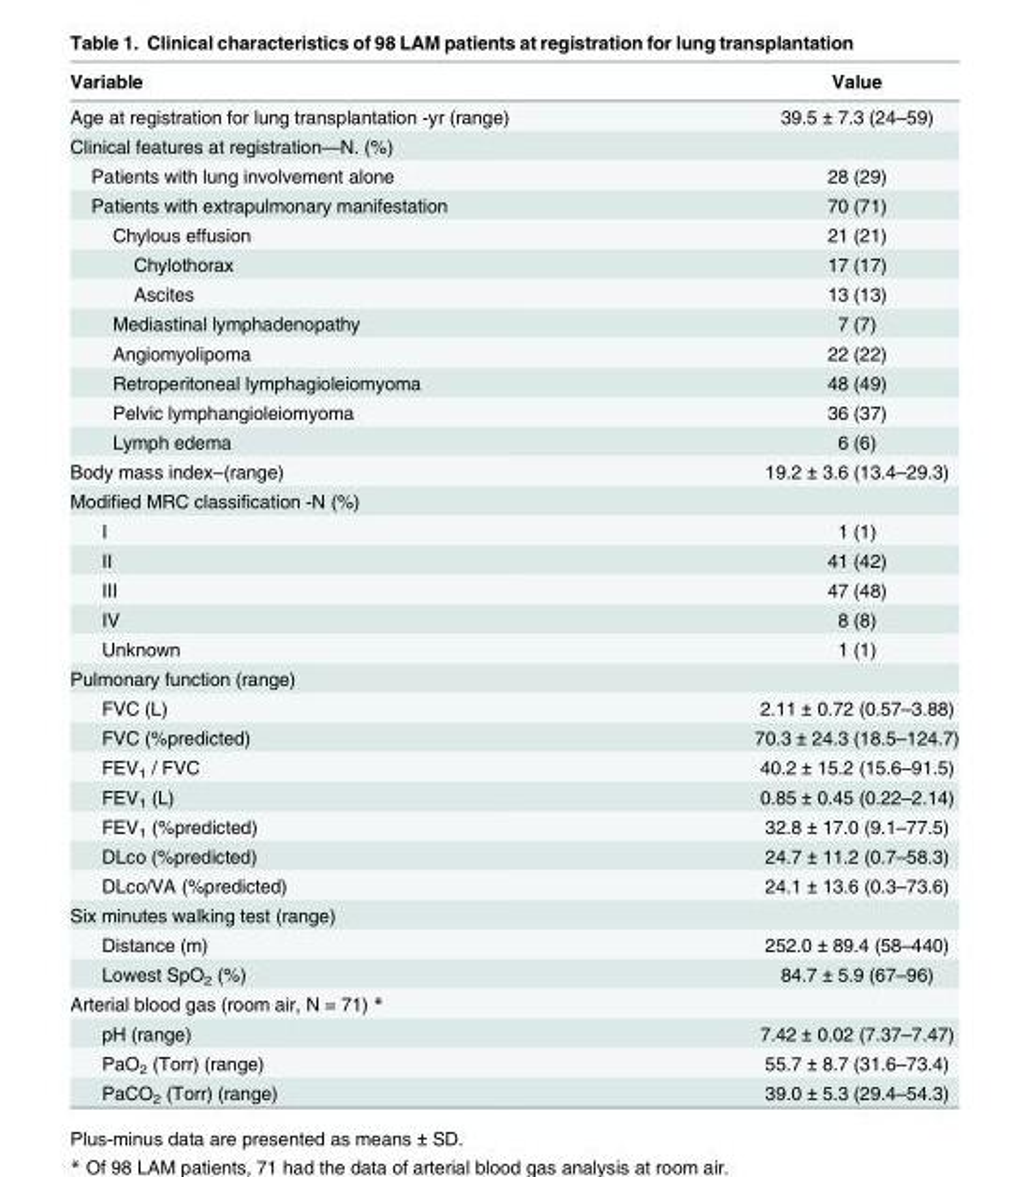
<table><thead><tr><td>Variable</td><td>Value</td></tr></thead><tbody><tr><td>Age at registration for lung transplantation -yr (range)</td><td>39.5 ± 7.3 (24–59)</td></tr><tr><td colspan="2">Clinical features at registration—N. (%)</td></tr><tr><td>Patients with lung involvement alone</td><td>28 (29)</td></tr><tr><td>Patients with extrapulmonary manifestation</td><td>70 (71)</td></tr><tr><td>Chylous effusion</td><td>21 (21)</td></tr><tr><td>Chylothorax</td><td>17 (17)</td></tr><tr><td>Ascites</td><td>13 (13)</td></tr><tr><td>Mediastinal lymphadenopathy</td><td>7 (7)</td></tr><tr><td>Angiomyolipoma</td><td>22 (22)</td></tr><tr><td>Retroperitoneal lymphagioleiomyoma</td><td>48 (49)</td></tr><tr><td>Pelvic lymphangioleiomyoma</td><td>36 (37)</td></tr><tr><td>Lymph edema</td><td>6 (6)</td></tr><tr><td>Body mass index–(range)</td><td>19.2 ± 3.6 (13.4–29.3)</td></tr><tr><td colspan="2">Modified MRC classification -N (%)</td></tr><tr><td>I</td><td>1 (1)</td></tr><tr><td>II</td><td>41 (42)</td></tr><tr><td>III</td><td>47 (48)</td></tr><tr><td>IV</td><td>8 (8)</td></tr><tr><td>Unknown</td><td>1 (1)</td></tr><tr><td colspan="2">Pulmonary function (range)</td></tr><tr><td>FVC (L)</td><td>2.11 ± 0.72 (0.57–3.88)</td></tr><tr><td>FVC (%predicted)</td><td>70.3 ± 24.3 (18.5–124.7)</td></tr><tr><td>FEV<sub>1</sub> / FVC</td><td>40.2 ± 15.2 (15.6–91.5)</td></tr><tr><td>FEV<sub>1</sub> (L)</td><td>0.85 ± 0.45 (0.22–2.14)</td></tr><tr><td>FEV<sub>1</sub> (%predicted)</td><td>32.8 ± 17.0 (9.1–77.5)</td></tr><tr><td>DLco (%predicted)</td><td>24.7 ± 11.2 (0.7–58.3)</td></tr><tr><td>DLco/VA (%predicted)</td><td>24.1 ± 13.6 (0.3–73.6)</td></tr><tr><td colspan="2">Six minutes walking test (range)</td></tr><tr><td>Distance (m)</td><td>252.0 ± 89.4 (58–440)</td></tr><tr><td>Lowest SpO<sub>2</sub> (%)</td><td>84.7 ± 5.9 (67–96)</td></tr><tr><td colspan="2">Arterial blood gas (room air, N = 71) *</td></tr><tr><td>pH (range)</td><td>7.42 ± 0.02 (7.37–7.47)</td></tr><tr><td>PaO<sub>2</sub> (Torr) (range)</td><td>55.7 ± 8.7 (31.6–73.4)</td></tr><tr><td>PaCO<sub>2</sub> (Torr) (range)</td><td>39.0 ± 5.3 (29.4–54.3)</td></tr></tbody></table>